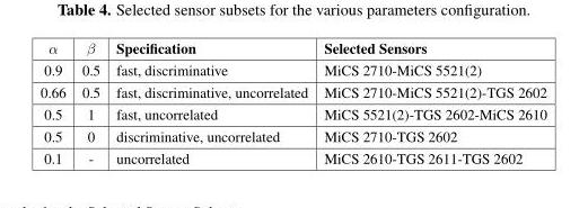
<table><thead><tr><td>α</td><td>β</td><td>Specification</td><td>Selected Sensors</td></tr></thead><tbody><tr><td>0.9</td><td>0.5</td><td>fast, discriminative</td><td>MiCS 2710-MiCS 5521(2)</td></tr><tr><td>0.66</td><td>0.5</td><td>fast, discriminative, uncorrelated</td><td>MiCS 2710-MiCS 5521(2)-TGS 2602</td></tr><tr><td>0.5</td><td>1</td><td>fast, uncorrelated</td><td>MiCS 5521(2)-TGS 2602-MiCS 2610</td></tr><tr><td>0.5</td><td>0</td><td>discriminative, uncorrelated</td><td>MiCS 2710-TGS 2602</td></tr><tr><td>0.1</td><td>-</td><td>uncorrelated</td><td>MiCS 2610-TGS 2611-TGS 2602</td></tr></tbody></table>